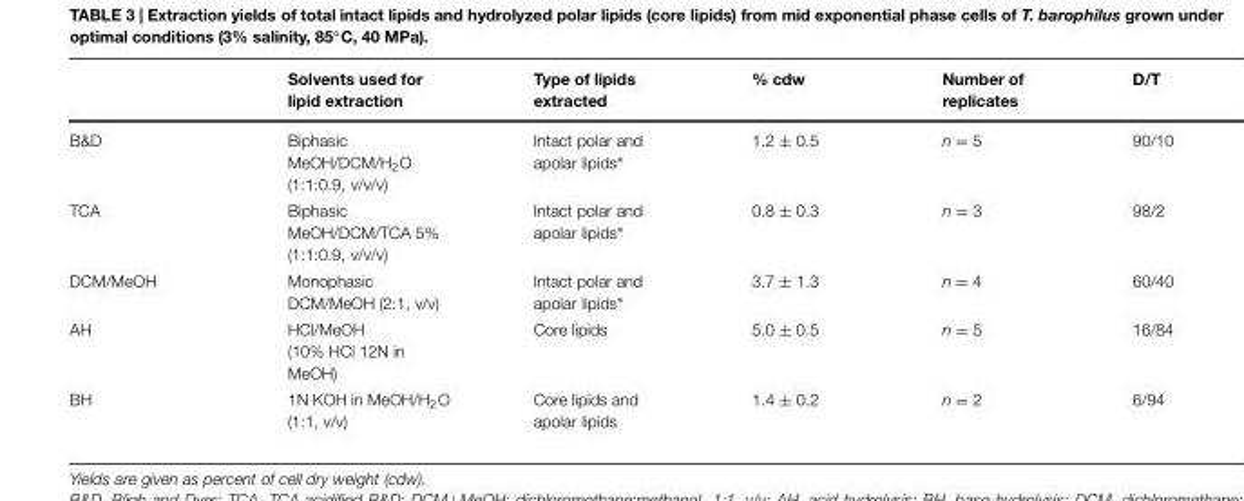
<table><thead><tr><td></td><td>Solvents used for lipid extraction</td><td>Type of lipids extracted</td><td>% cdw</td><td>Number of replicates</td><td>D/T</td></tr></thead><tbody><tr><td>B&amp;D</td><td>Biphasic MeOH/DCM/H<sub>2</sub>O (1:1:0.9, v/v/v)</td><td>Intact polar and apolar lipids∗</td><td>1.2 ± 0.5</td><td>n = 5</td><td>90/10</td></tr><tr><td>TCA</td><td>Biphasic MeOH/DCM/TCA 5% (1:1:0.9, v/v/v)</td><td>Intact polar and apolar lipids∗</td><td>0.8 ± 0.3</td><td>n = 3</td><td>98/2</td></tr><tr><td>DCM/MeOH</td><td>Monophasic DCM/MeOH (2:1, v/v)</td><td>Intact polar and apolar lipids∗</td><td>3.7 ± 1.3</td><td>n = 4</td><td>60/40</td></tr><tr><td>AH</td><td>HCl/MeOH (10% HCl 12N in MeOH)</td><td>Core lipids</td><td>5.0 ± 0.5</td><td>n = 5</td><td>16/84</td></tr><tr><td>BH</td><td>1N KOH in MeOH/H<sub>2</sub>O (1:1, v/v)</td><td>Core lipids and apolar lipids</td><td>1.4 ± 0.2</td><td>n = 2</td><td>6/94</td></tr></tbody></table>